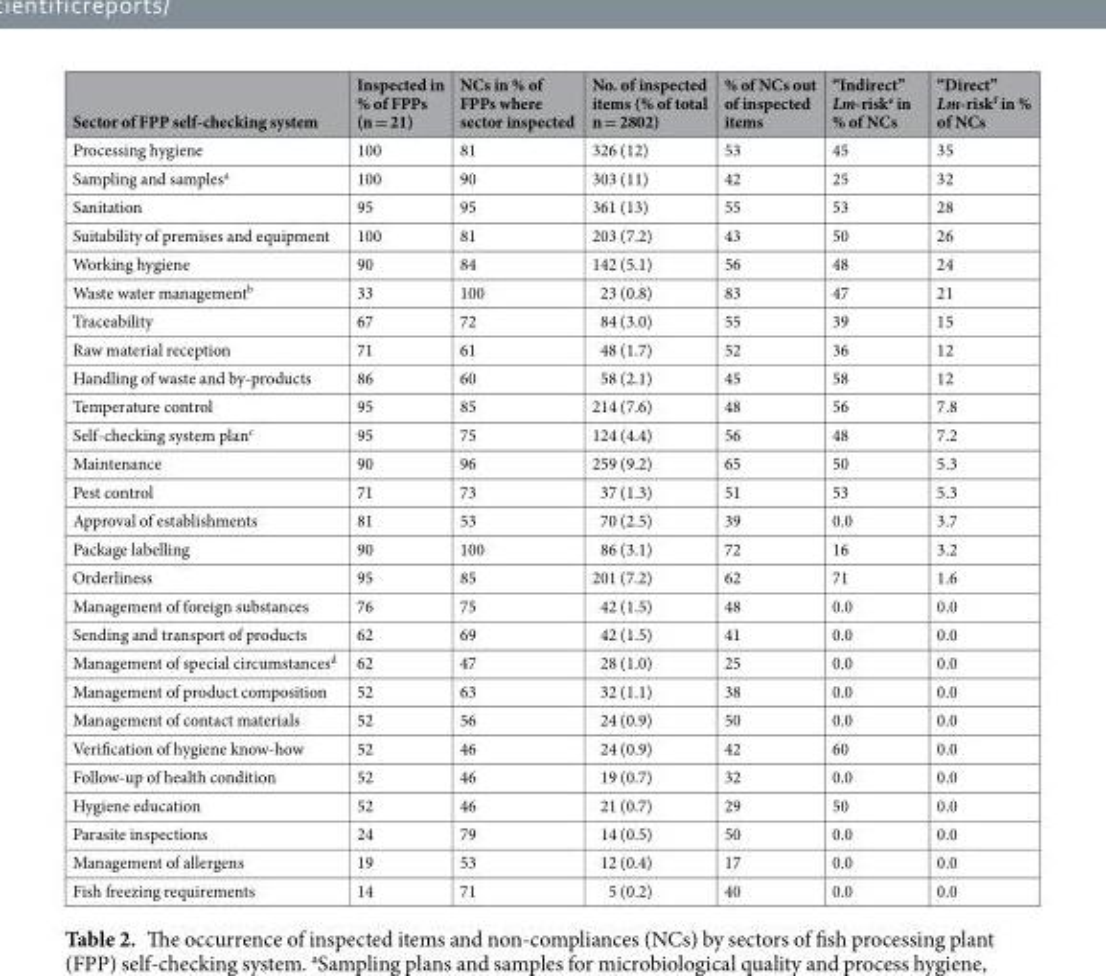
<table><thead><tr><td>Sector of FPP self-checking system</td><td>Inspected in % of FPPs (n = 21)</td><td>NCs in % of FPPs where sector inspected</td><td>No. of inspected items (% of total n = 2802)</td><td>% of NCs out of inspected items</td><td>“Indirect” Lm-risk<sup>e</sup> in % of NCs</td><td>“Direct” Lm-risk<sup>f</sup> in % of NCs</td></tr></thead><tbody><tr><td>Processing hygiene</td><td>100</td><td>81</td><td>326 (12)</td><td>53</td><td>45</td><td>35</td></tr><tr><td>Sampling and samples<sup>a</sup></td><td>100</td><td>90</td><td>303 (11)</td><td>42</td><td>25</td><td>32</td></tr><tr><td>Sanitation</td><td>95</td><td>95</td><td>361 (13)</td><td>55</td><td>53</td><td>28</td></tr><tr><td>Suitability of premises and equipment</td><td>100</td><td>81</td><td>203 (7.2)</td><td>43</td><td>50</td><td>26</td></tr><tr><td>Working hygiene</td><td>90</td><td>84</td><td>142 (5.1)</td><td>56</td><td>48</td><td>24</td></tr><tr><td>Waste water management<sup>b</sup></td><td>33</td><td>100</td><td>23 (0.8)</td><td>83</td><td>47</td><td>21</td></tr><tr><td>Traceability</td><td>67</td><td>72</td><td>84 (3.0)</td><td>55</td><td>39</td><td>15</td></tr><tr><td>Raw material reception</td><td>71</td><td>61</td><td>48 (1.7)</td><td>52</td><td>36</td><td>12</td></tr><tr><td>Handling of waste and by-products</td><td>86</td><td>60</td><td>58 (2.1)</td><td>45</td><td>58</td><td>12</td></tr><tr><td>Temperature control</td><td>95</td><td>85</td><td>214 (7.6)</td><td>48</td><td>56</td><td>7.8</td></tr><tr><td>Self-checking system plan<sup>c</sup></td><td>95</td><td>75</td><td>124 (4.4)</td><td>56</td><td>48</td><td>7.2</td></tr><tr><td>Maintenance</td><td>90</td><td>96</td><td>259 (9.2)</td><td>65</td><td>50</td><td>5.3</td></tr><tr><td>Pest control</td><td>71</td><td>73</td><td>37 (1.3)</td><td>51</td><td>53</td><td>5.3</td></tr><tr><td>Approval of establishments</td><td>81</td><td>53</td><td>70 (2.5)</td><td>39</td><td>0.0</td><td>3.7</td></tr><tr><td>Package labelling</td><td>90</td><td>100</td><td>86 (3.1)</td><td>72</td><td>16</td><td>3.2</td></tr><tr><td>Orderliness</td><td>95</td><td>85</td><td>201 (7.2)</td><td>62</td><td>71</td><td>1.6</td></tr><tr><td>Management of foreign substances</td><td>76</td><td>75</td><td>42 (1.5)</td><td>48</td><td>0.0</td><td>0.0</td></tr><tr><td>Sending and transport of products</td><td>62</td><td>69</td><td>42 (1.5)</td><td>41</td><td>0.0</td><td>0.0</td></tr><tr><td>Management of special circumstances<sup>d</sup></td><td>62</td><td>47</td><td>28 (1.0)</td><td>25</td><td>0.0</td><td>0.0</td></tr><tr><td>Management of product composition</td><td>52</td><td>63</td><td>32 (1.1)</td><td>38</td><td>0.0</td><td>0.0</td></tr><tr><td>Management of contact materials</td><td>52</td><td>56</td><td>24 (0.9)</td><td>50</td><td>0.0</td><td>0.0</td></tr><tr><td>Verification of hygiene know-how</td><td>52</td><td>46</td><td>24 (0.9)</td><td>42</td><td>60</td><td>0.0</td></tr><tr><td>Follow-up of health condition</td><td>52</td><td>46</td><td>19 (0.7)</td><td>32</td><td>0.0</td><td>0.0</td></tr><tr><td>Hygiene education</td><td>52</td><td>46</td><td>21 (0.7)</td><td>29</td><td>50</td><td>0.0</td></tr><tr><td>Parasite inspections</td><td>24</td><td>79</td><td>14 (0.5)</td><td>50</td><td>0.0</td><td>0.0</td></tr><tr><td>Management of allergens</td><td>19</td><td>53</td><td>12 (0.4)</td><td>17</td><td>0.0</td><td>0.0</td></tr><tr><td>Fish freezing requirements</td><td>14</td><td>71</td><td>5 (0.2)</td><td>40</td><td>0.0</td><td>0.0</td></tr></tbody></table>